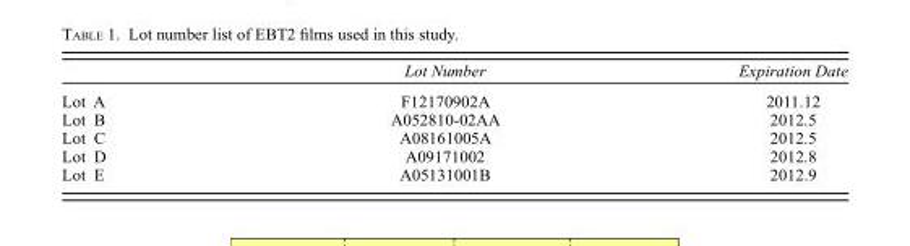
<table><thead><tr><td></td><td>Lot Number</td><td>Expiration Date</td></tr></thead><tbody><tr><td>Lot A</td><td>F12170902A</td><td>2011.12</td></tr><tr><td>Lot B</td><td>A052810-02AA</td><td>2012.5</td></tr><tr><td>Lot C</td><td>A08161005A</td><td>2012.5</td></tr><tr><td>Lot D</td><td>A09171002</td><td>2012.8</td></tr><tr><td>Lot E</td><td>A05131001B</td><td>2012.9</td></tr></tbody></table>